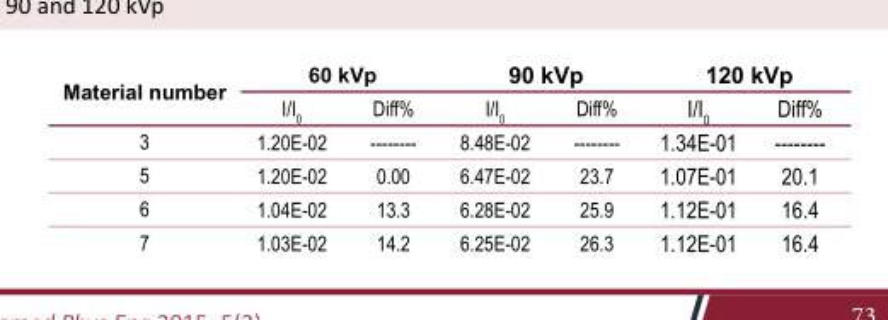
<table><thead><tr><td rowspan="2">Material number</td><td colspan="2">60 kVp</td><td colspan="2">90 kVp</td><td colspan="2">120 kVp</td></tr><tr><td>I/I<sub>0</sub></td><td>Diff%</td><td>I/I<sub>0</sub></td><td>Diff%</td><td>I/I<sub>0</sub></td><td>Diff%</td></tr></thead><tbody><tr><td>3</td><td>1.20E-02</td><td>--------</td><td>8.48E-02</td><td>--------</td><td>1.34E-01</td><td>--------</td></tr><tr><td>5</td><td>1.20E-02</td><td>0.00</td><td>6.47E-02</td><td>23.7</td><td>1.07E-01</td><td>20.1</td></tr><tr><td>6</td><td>1.04E-02</td><td>13.3</td><td>6.28E-02</td><td>25.9</td><td>1.12E-01</td><td>16.4</td></tr><tr><td>7</td><td>1.03E-02</td><td>14.2</td><td>6.25E-02</td><td>26.3</td><td>1.12E-01</td><td>16.4</td></tr></tbody></table>